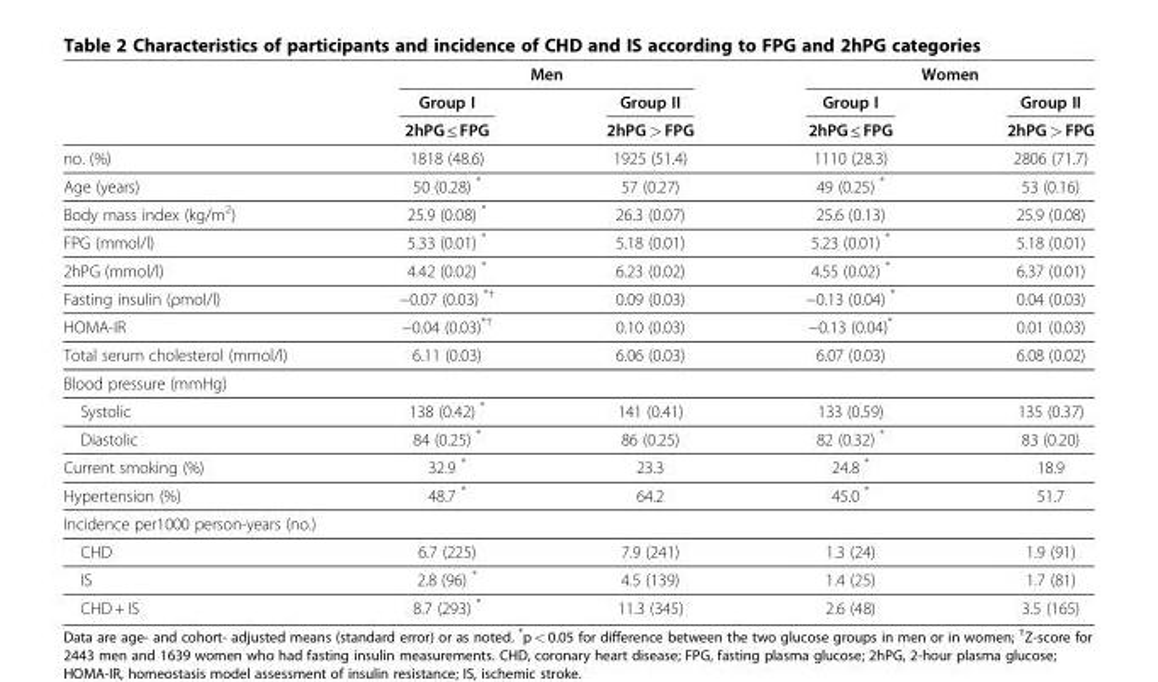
<table><thead><tr><td rowspan="3"></td><td colspan="2">Men</td><td colspan="2">Women</td></tr><tr><td rowspan="2">Group I 2hPG ≤ FPG</td><td rowspan="2">Group II 2hPG &gt; FPG</td><td rowspan="2">Group I 2hPG ≤ FPG</td><td rowspan="2">Group II 2hPG &gt; FPG</td></tr><tr></tr></thead><tbody><tr><td>no. (%)</td><td>1818 (48.6)</td><td>1925 (51.4)</td><td>1110 (28.3)</td><td>2806 (71.7)</td></tr><tr><td>Age (years)</td><td>50 (0.28) *</td><td>57 (0.27)</td><td>49 (0.25) *</td><td>53 (0.16)</td></tr><tr><td>Body mass index (kg/m<sup>2</sup>)</td><td>25.9 (0.08) *</td><td>26.3 (0.07)</td><td>25.6 (0.13)</td><td>25.9 (0.08)</td></tr><tr><td>FPG (mmol/l)</td><td>5.33 (0.01) *</td><td>5.18 (0.01)</td><td>5.23 (0.01) *</td><td>5.18 (0.01)</td></tr><tr><td>2hPG (mmol/l)</td><td>4.42 (0.02) *</td><td>6.23 (0.02)</td><td>4.55 (0.02) *</td><td>6.37 (0.01)</td></tr><tr><td>Fasting insulin (ρmol/l)</td><td>−0.07 (0.03) <sup>*†</sup></td><td>0.09 (0.03)</td><td>−0.13 (0.04) *</td><td>0.04 (0.03)</td></tr><tr><td>HOMA-IR</td><td>−0.04 (0.03)<sup>*†</sup></td><td>0.10 (0.03)</td><td>−0.13 (0.04)*</td><td>0.01 (0.03)</td></tr><tr><td>Total serum cholesterol (mmol/l)</td><td>6.11 (0.03)</td><td>6.06 (0.03)</td><td>6.07 (0.03)</td><td>6.08 (0.02)</td></tr><tr><td colspan="5">Blood pressure (mmHg)</td></tr><tr><td>Systolic</td><td>138 (0.42) *</td><td>141 (0.41)</td><td>133 (0.59)</td><td>135 (0.37)</td></tr><tr><td>Diastolic</td><td>84 (0.25) *</td><td>86 (0.25)</td><td>82 (0.32) *</td><td>83 (0.20)</td></tr><tr><td>Current smoking (%)</td><td>32.9 *</td><td>23.3</td><td>24.8 *</td><td>18.9</td></tr><tr><td>Hypertension (%)</td><td>48.7 *</td><td>64.2</td><td>45.0 *</td><td>51.7</td></tr><tr><td colspan="5">Incidence per1000 person-years (no.)</td></tr><tr><td>CHD</td><td>6.7 (225)</td><td>7.9 (241)</td><td>1.3 (24)</td><td>1.9 (91)</td></tr><tr><td>IS</td><td>2.8 (96) *</td><td>4.5 (139)</td><td>1.4 (25)</td><td>1.7 (81)</td></tr><tr><td>CHD + IS</td><td>8.7 (293) *</td><td>11.3 (345)</td><td>2.6 (48)</td><td>3.5 (165)</td></tr></tbody></table>